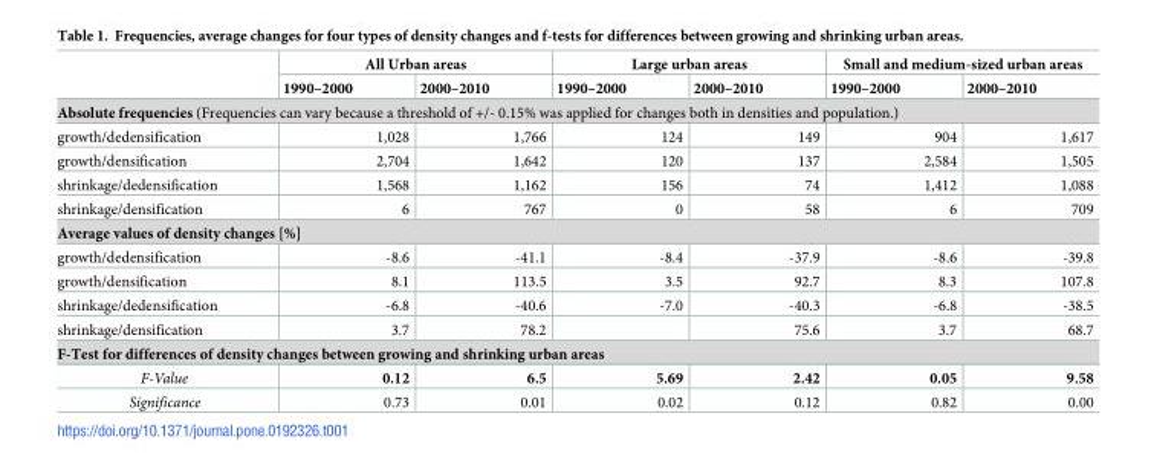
<table><thead><tr><td rowspan="2"></td><td colspan="2">All Urban areas</td><td colspan="2">Large urban areas</td><td colspan="2">Small and medium-sized urban areas</td></tr><tr><td>1990–2000</td><td>2000–2010</td><td>1990–2000</td><td>2000–2010</td><td>1990–2000</td><td>2000–2010</td></tr></thead><tbody><tr><td colspan="7">Absolute frequencies (Frequencies can vary because a threshold of +/- 0.15% was applied for changes both in densities and population.)</td></tr><tr><td>growth/dedensification</td><td>1,028</td><td>1,766</td><td>124</td><td>149</td><td>904</td><td>1,617</td></tr><tr><td>growth/densification</td><td>2,704</td><td>1,642</td><td>120</td><td>137</td><td>2,584</td><td>1,505</td></tr><tr><td>shrinkage/dedensification</td><td>1,568</td><td>1,162</td><td>156</td><td>74</td><td>1,412</td><td>1,088</td></tr><tr><td>shrinkage/densification</td><td>6</td><td>767</td><td>0</td><td>58</td><td>6</td><td>709</td></tr><tr><td colspan="7">Average values of density changes [%]</td></tr><tr><td>growth/dedensification</td><td>-8.6</td><td>-41.1</td><td>-8.4</td><td>-37.9</td><td>-8.6</td><td>-39.8</td></tr><tr><td>growth/densification</td><td>8.1</td><td>113.5</td><td>3.5</td><td>92.7</td><td>8.3</td><td>107.8</td></tr><tr><td>shrinkage/dedensification</td><td>-6.8</td><td>-40.6</td><td>-7.0</td><td>-40.3</td><td>-6.8</td><td>-38.5</td></tr><tr><td>shrinkage/densification</td><td>3.7</td><td>78.2</td><td></td><td>75.6</td><td>3.7</td><td>68.7</td></tr><tr><td colspan="7">F-Test for differences of density changes between growing and shrinking urban areas</td></tr><tr><td>F-Value</td><td>0.12</td><td>6.5</td><td>5.69</td><td>2.42</td><td>0.05</td><td>9.58</td></tr><tr><td>Significance</td><td>0.73</td><td>0.01</td><td>0.02</td><td>0.12</td><td>0.82</td><td>0.00</td></tr></tbody></table>